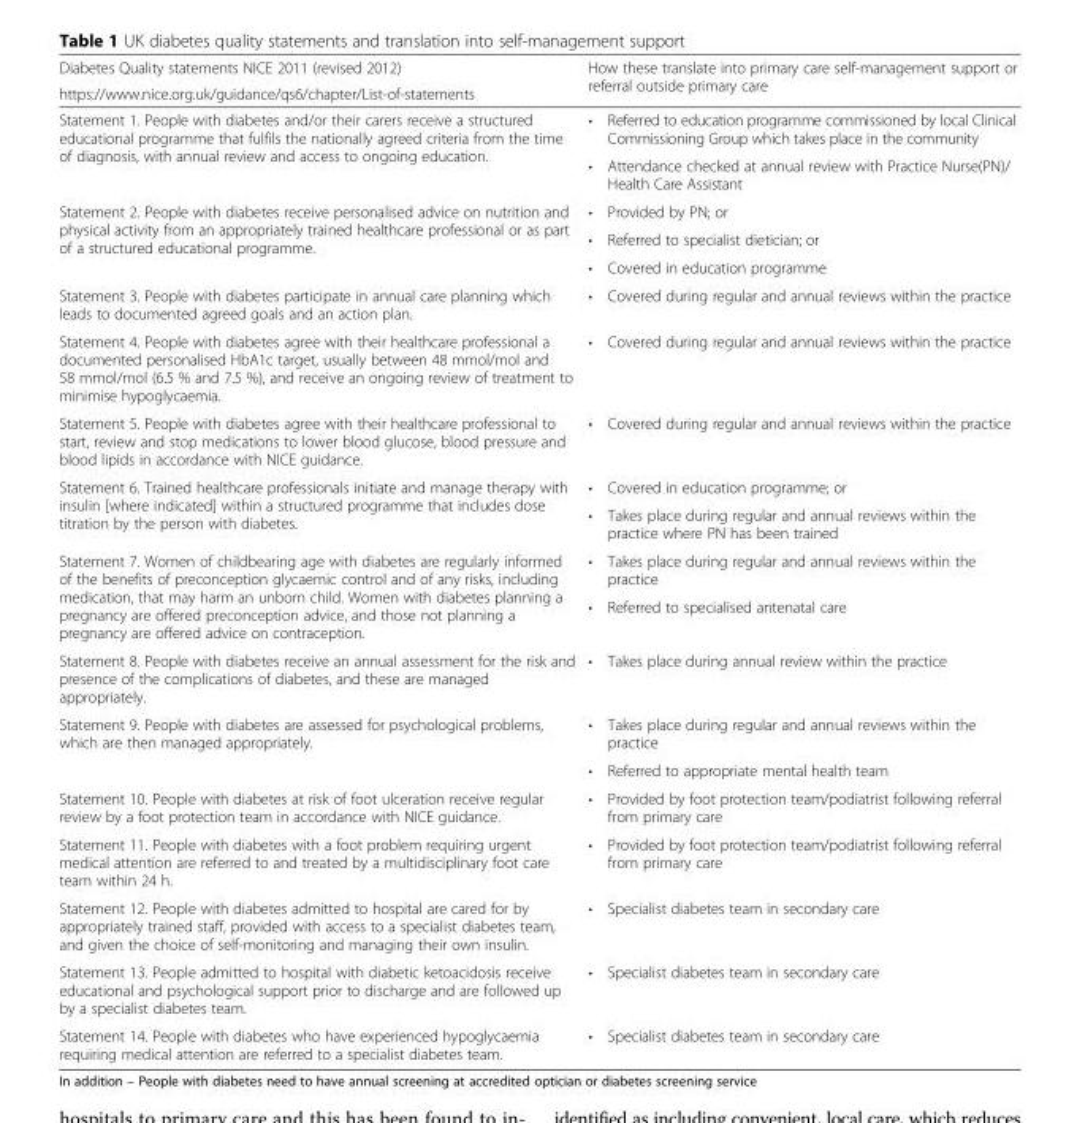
<table><thead><tr><td rowspan="2">Diabetes Quality statements NICE 2011 (revised 2012) https://www.nice.org.uk/guidance/qs6/chapter/List-of-statements</td><td rowspan="2">How these translate into primary care self-management support or referral outside primary care</td></tr><tr></tr></thead><tbody><tr><td rowspan="2">Statement 1. People with diabetes and/or their carers receive a structured educational programme that fulfils the nationally agreed criteria from the time of diagnosis, with annual review and access to ongoing education.</td><td>• Referred to education programme commissioned by local Clinical Commissioning Group which takes place in the community</td></tr><tr><td>• Attendance checked at annual review with Practice Nurse(PN)/ Health Care Assistant</td></tr><tr><td rowspan="3">Statement 2. People with diabetes receive personalised advice on nutrition and physical activity from an appropriately trained healthcare professional or as part of a structured educational programme.</td><td>• Provided by PN; or</td></tr><tr><td>• Referred to specialist dietician; or</td></tr><tr><td>• Covered in education programme</td></tr><tr><td>Statement 3. People with diabetes participate in annual care planning which leads to documented agreed goals and an action plan.</td><td>• Covered during regular and annual reviews within the practice</td></tr><tr><td>Statement 4. People with diabetes agree with their healthcare professional a documented personalised HbA1c target, usually between 48 mmol/mol and 58 mmol/mol (6.5 % and 7.5 %), and receive an ongoing review of treatment to minimise hypoglycaemia.</td><td>• Covered during regular and annual reviews within the practice</td></tr><tr><td>Statement 5. People with diabetes agree with their healthcare professional to start, review and stop medications to lower blood glucose, blood pressure and blood lipids in accordance with NICE guidance.</td><td>• Covered during regular and annual reviews within the practice</td></tr><tr><td rowspan="2">Statement 6. Trained healthcare professionals initiate and manage therapy with insulin [where indicated] within a structured programme that includes dose titration by the person with diabetes.</td><td>• Covered in education programme; or</td></tr><tr><td>• Takes place during regular and annual reviews within the practice where PN has been trained</td></tr><tr><td rowspan="2">Statement 7. Women of childbearing age with diabetes are regularly informed of the benefits of preconception glycaemic control and of any risks, including medication, that may harm an unborn child. Women with diabetes planning a pregnancy are offered preconception advice, and those not planning a pregnancy are offered advice on contraception.</td><td>• Takes place during regular and annual reviews within the practice</td></tr><tr><td>• Referred to specialised antenatal care</td></tr><tr><td>Statement 8. People with diabetes receive an annual assessment for the risk and presence of the complications of diabetes, and these are managed appropriately.</td><td>• Takes place during annual review within the practice</td></tr><tr><td rowspan="2">Statement 9. People with diabetes are assessed for psychological problems, which are then managed appropriately.</td><td>• Takes place during regular and annual reviews within the practice</td></tr><tr><td>• Referred to appropriate mental health team</td></tr><tr><td>Statement 10. People with diabetes at risk of foot ulceration receive regular review by a foot protection team in accordance with NICE guidance.</td><td>• Provided by foot protection team/podiatrist following referral from primary care</td></tr><tr><td>Statement 11. People with diabetes with a foot problem requiring urgent medical attention are referred to and treated by a multidisciplinary foot care team within 24 h.</td><td>• Provided by foot protection team/podiatrist following referral from primary care</td></tr><tr><td>Statement 12. People with diabetes admitted to hospital are cared for by appropriately trained staff, provided with access to a specialist diabetes team, and given the choice of self-monitoring and managing their own insulin.</td><td>• Specialist diabetes team in secondary care</td></tr><tr><td>Statement 13. People admitted to hospital with diabetic ketoacidosis receive educational and psychological support prior to discharge and are followed up by a specialist diabetes team.</td><td>• Specialist diabetes team in secondary care</td></tr><tr><td>Statement 14. People with diabetes who have experienced hypoglycaemia requiring medical attention are referred to a specialist diabetes team.</td><td>• Specialist diabetes team in secondary care</td></tr></tbody></table>